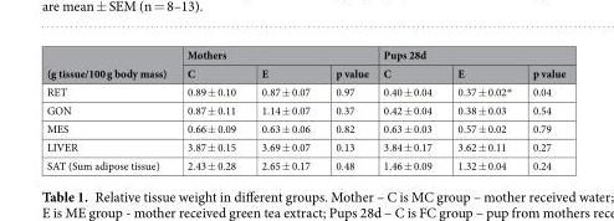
<table><thead><tr><td rowspan="2">(g tissue/100 g body mass)</td><td colspan="3">Mothers</td><td colspan="3">Pups 28d</td></tr><tr><td>C</td><td>E</td><td>p value</td><td>C</td><td>E</td><td>p value</td></tr></thead><tbody><tr><td>RET</td><td>0.89 ± 0.10</td><td>0.87 ± 0.07</td><td>0.97</td><td>0.40 ± 0.04</td><td>0.37 ± 0.02*</td><td>0.04</td></tr><tr><td>GON</td><td>0.87 ± 0.11</td><td>1.14 ± 0.07</td><td>0.37</td><td>0.42 ± 0.04</td><td>0.38 ± 0.03</td><td>0.54</td></tr><tr><td>MES</td><td>0.66 ± 0.09</td><td>0.63 ± 0.06</td><td>0.82</td><td>0.63 ± 0.03</td><td>0.57 ± 0.02</td><td>0.79</td></tr><tr><td>LIVER</td><td>3.87 ± 0.15</td><td>3.69 ± 0.07</td><td>0.13</td><td>3.84 ± 0.17</td><td>3.62 ± 0.11</td><td>0.27</td></tr><tr><td>SAT (Sum adipose tissue)</td><td>2.43 ± 0.28</td><td>2.65 ± 0.17</td><td>0.48</td><td>1.46 ± 0.09</td><td>1.32 ± 0.04</td><td>0.24</td></tr></tbody></table>